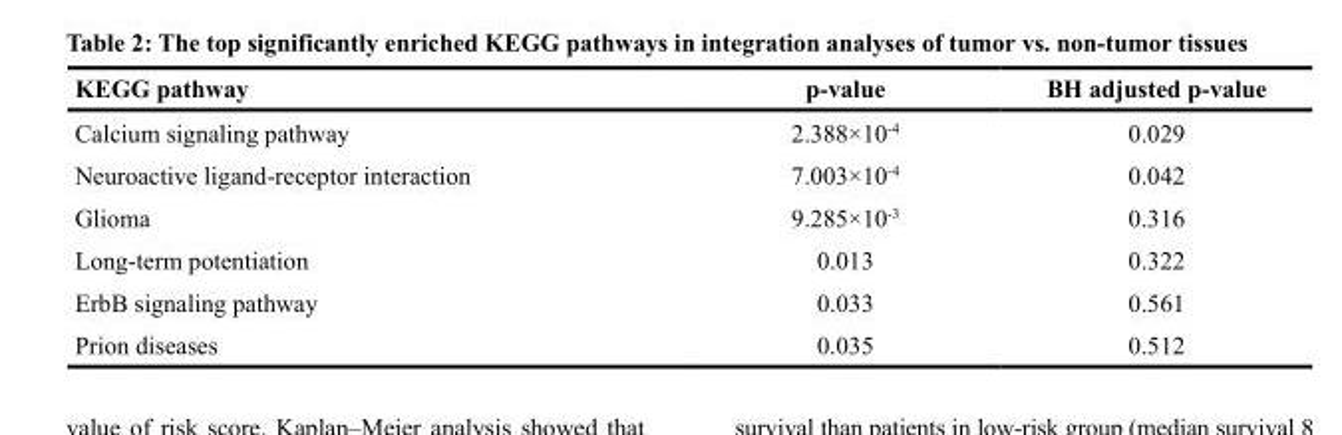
<table><thead><tr><td>KEGG pathway</td><td>p-value</td><td>BH adjusted p-value</td></tr></thead><tbody><tr><td>Calcium signaling pathway</td><td>2.388×10<sup>-4</sup></td><td>0.029</td></tr><tr><td>Neuroactive ligand-receptor interaction</td><td>7.003×10<sup>-4</sup></td><td>0.042</td></tr><tr><td>Glioma</td><td>9.285×10<sup>-3</sup></td><td>0.316</td></tr><tr><td>Long-term potentiation</td><td>0.013</td><td>0.322</td></tr><tr><td>ErbB signaling pathway</td><td>0.033</td><td>0.561</td></tr><tr><td>Prion diseases</td><td>0.035</td><td>0.512</td></tr></tbody></table>